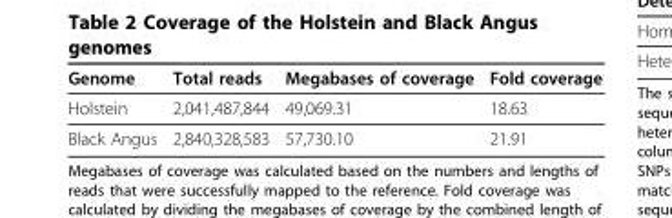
<table><thead><tr><td>Genome</td><td>Total reads</td><td>Megabases of coverage</td><td>Fold coverage</td></tr></thead><tbody><tr><td>Holstein</td><td>2,041,487,844</td><td>49,069.31</td><td>18.63</td></tr><tr><td>Black Angus</td><td>2,840,328,583</td><td>57,730.10</td><td>21.91</td></tr></tbody></table>